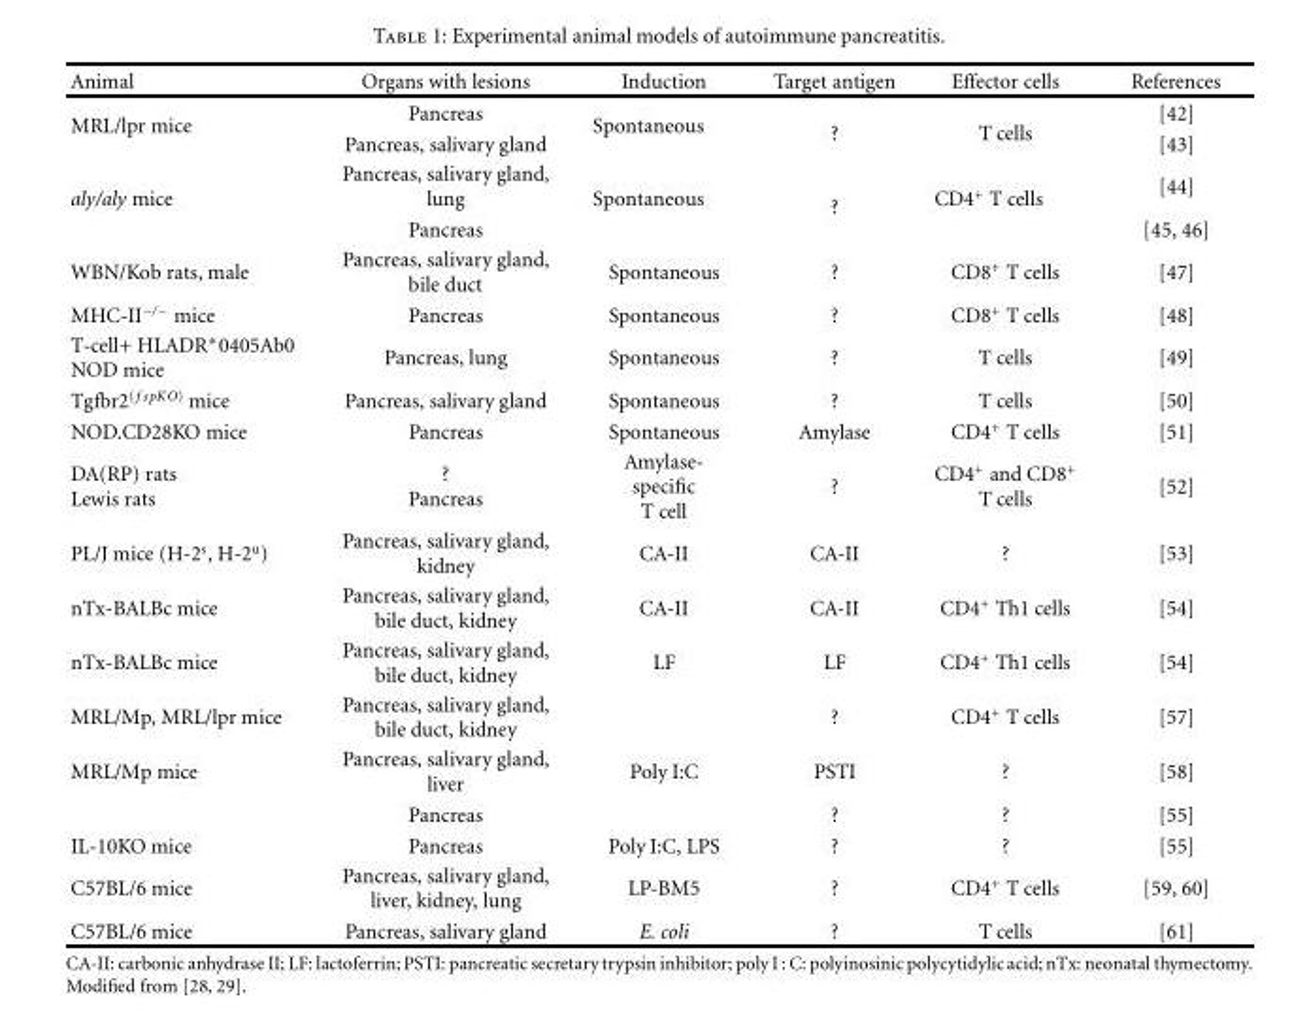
<table><thead><tr><td>Animal</td><td>Organs with lesions</td><td>Induction</td><td>Target antigen</td><td>Effector cells</td><td>References</td></tr></thead><tbody><tr><td rowspan="2">MRL/lpr mice</td><td>Pancreas</td><td rowspan="2">Spontaneous</td><td rowspan="2">?</td><td rowspan="2">T cells</td><td>[42]</td></tr><tr><td>Pancreas, salivary gland</td><td>[43]</td></tr><tr><td rowspan="2">aly/aly mice</td><td>Pancreas, salivary gland, lung</td><td rowspan="2">Spontaneous</td><td rowspan="2">?</td><td rowspan="2">CD4<sup>+</sup> T cells</td><td>[44]</td></tr><tr><td>Pancreas</td><td>[45, 46]</td></tr><tr><td>WBN/Kob rats, male</td><td>Pancreas, salivary gland, bile duct</td><td>Spontaneous</td><td>?</td><td>CD8<sup>+</sup> T cells</td><td>[47]</td></tr><tr><td>MHC-II<sup>−/−</sup> mice</td><td>Pancreas</td><td>Spontaneous</td><td>?</td><td>CD8<sup>+</sup> T cells</td><td>[48]</td></tr><tr><td>T-cell+ HLADR∗0405Ab0 NOD mice</td><td>Pancreas, lung</td><td>Spontaneous</td><td>?</td><td>T cells</td><td>[49]</td></tr><tr><td>Tgfbr2<sup>( f spKO)</sup> mice</td><td>Pancreas, salivary gland</td><td>Spontaneous</td><td>?</td><td>T cells</td><td>[50]</td></tr><tr><td>NOD.CD28KO mice</td><td>Pancreas</td><td>Spontaneous</td><td>Amylase</td><td>CD4<sup>+</sup> T cells</td><td>[51]</td></tr><tr><td>DA(RP) rats Lewis rats</td><td>? Pancreas</td><td>Amylase- specific T cell</td><td>?</td><td>CD4<sup>+</sup> and CD8<sup>+</sup> T cells</td><td>[52]</td></tr><tr><td>PL/J mice (H-2<sup>s</sup>, H-2<sup>u</sup>)</td><td>Pancreas, salivary gland, kidney</td><td>CA-II</td><td>CA-II</td><td>?</td><td>[53]</td></tr><tr><td>nTx-BALBc mice</td><td>Pancreas, salivary gland, bile duct, kidney</td><td>CA-II</td><td>CA-II</td><td>CD4<sup>+</sup> Th1 cells</td><td>[54]</td></tr><tr><td>nTx-BALBc mice</td><td>Pancreas, salivary gland, bile duct, kidney</td><td>LF</td><td>LF</td><td>CD4<sup>+</sup> Th1 cells</td><td>[54]</td></tr><tr><td>MRL/Mp, MRL/lpr mice</td><td>Pancreas, salivary gland, bile duct, kidney</td><td></td><td>?</td><td>CD4<sup>+</sup> T cells</td><td>[57]</td></tr><tr><td rowspan="2">MRL/Mp mice</td><td>Pancreas, salivary gland, liver</td><td>Poly I:C</td><td>PSTI</td><td>?</td><td>[58]</td></tr><tr><td>Pancreas</td><td></td><td>?</td><td>?</td><td>[55]</td></tr><tr><td>IL-10KO mice</td><td>Pancreas</td><td>Poly I:C, LPS</td><td>?</td><td>?</td><td>[55]</td></tr><tr><td>C57BL/6 mice</td><td>Pancreas, salivary gland, liver, kidney, lung</td><td>LP-BM5</td><td>?</td><td>CD4<sup>+</sup> T cells</td><td>[59, 60]</td></tr><tr><td>C57BL/6 mice</td><td>Pancreas, salivary gland</td><td>E. coli</td><td>?</td><td>T cells</td><td>[61]</td></tr></tbody></table>